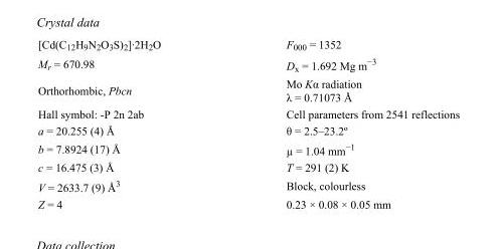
<table><tbody><tr><td>[Cd(C<sub>12</sub>H<sub>9</sub>N<sub>2</sub>O<sub>3</sub>S)<sub>2</sub>]·2H<sub>2</sub>O</td><td>F000 = 1352</td></tr><tr><td>M<sub>r</sub> = 670.98</td><td>D<sub>x</sub> = 1.692 Mg m<sup>−3</sup></td></tr><tr><td>Orthorhombic, Pbcn</td><td>Mo Kα radiation λ = 0.71073 Å</td></tr><tr><td>Hall symbol: -P 2n 2ab</td><td>Cell parameters from 2541 reflections</td></tr><tr><td>a = 20.255 (4) Å</td><td>θ = 2.5–23.2º</td></tr><tr><td>b = 7.8924 (17) Å</td><td>µ = 1.04 mm<sup>−1</sup></td></tr><tr><td>c = 16.475 (3) Å</td><td>T = 291 (2) K</td></tr><tr><td>V = 2633.7 (9) Å<sup>3</sup></td><td>Block, colourless</td></tr><tr><td>Z = 4</td><td>0.23 × 0.08 × 0.05 mm</td></tr></tbody></table>